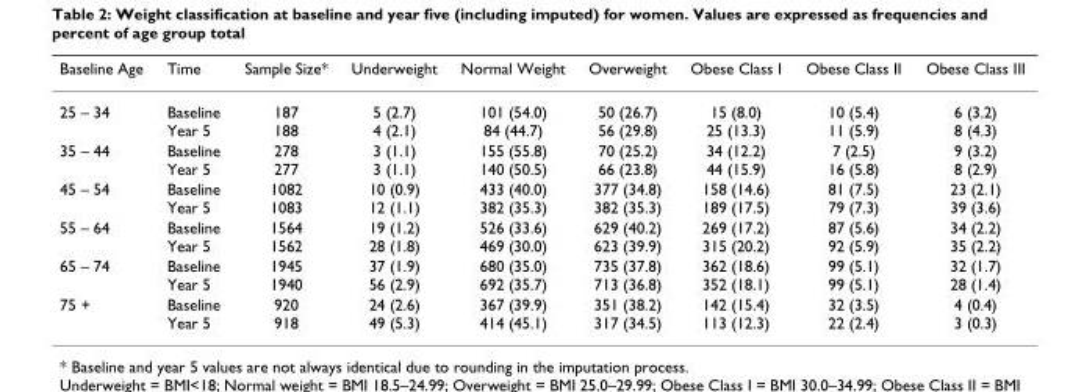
<table><thead><tr><td>Baseline Age</td><td>Time</td><td>Sample Size*</td><td>Underweight</td><td>Normal Weight</td><td>Overweight</td><td>Obese Class I</td><td>Obese Class II</td><td>Obese Class III</td></tr></thead><tbody><tr><td>25 – 34</td><td>Baseline Year 5</td><td>187 188</td><td>5 (2.7) 4 (2.1)</td><td>101 (54.0) 84 (44.7)</td><td>50 (26.7) 56 (29.8)</td><td>15 (8.0) 25 (13.3)</td><td>10 (5.4) 11 (5.9)</td><td>6 (3.2) 8 (4.3)</td></tr><tr><td>35 – 44</td><td>Baseline Year 5</td><td>278 277</td><td>3 (1.1) 3 (1.1)</td><td>155 (55.8) 140 (50.5)</td><td>70 (25.2) 66 (23.8)</td><td>34 (12.2) 44 (15.9)</td><td>7 (2.5) 16 (5.8)</td><td>9 (3.2) 8 (2.9)</td></tr><tr><td>45 – 54</td><td>Baseline Year 5</td><td>1082 1083</td><td>10 (0.9) 12 (1.1)</td><td>433 (40.0) 382 (35.3)</td><td>377 (34.8) 382 (35.3)</td><td>158 (14.6) 189 (17.5)</td><td>81 (7.5) 79 (7.3)</td><td>23 (2.1) 39 (3.6)</td></tr><tr><td>55 – 64</td><td>Baseline Year 5</td><td>1564 1562</td><td>19 (1.2) 28 (1.8)</td><td>526 (33.6) 469 (30.0)</td><td>629 (40.2) 623 (39.9)</td><td>269 (17.2) 315 (20.2)</td><td>87 (5.6) 92 (5.9)</td><td>34 (2.2) 35 (2.2)</td></tr><tr><td>65 – 74</td><td>Baseline Year 5</td><td>1945 1940</td><td>37 (1.9) 56 (2.9)</td><td>680 (35.0) 692 (35.7)</td><td>735 (37.8) 713 (36.8)</td><td>362 (18.6) 352 (18.1)</td><td>99 (5.1) 99 (5.1)</td><td>32 (1.7) 28 (1.4)</td></tr><tr><td>75 +</td><td>Baseline Year 5</td><td>920 918</td><td>24 (2.6) 49 (5.3)</td><td>367 (39.9) 414 (45.1)</td><td>351 (38.2) 317 (34.5)</td><td>142 (15.4) 113 (12.3)</td><td>32 (3.5) 22 (2.4)</td><td>4 (0.4) 3 (0.3)</td></tr></tbody></table>